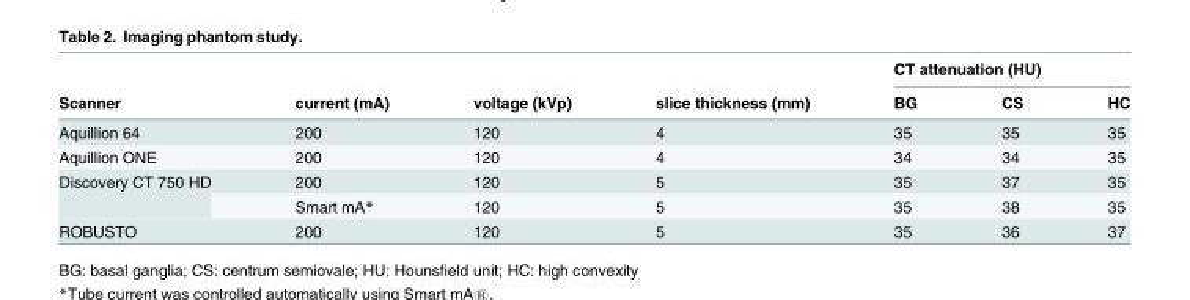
<table><thead><tr><td rowspan="2">Scanner</td><td rowspan="2">current (mA)</td><td rowspan="2">voltage (kVp)</td><td rowspan="2">slice thickness (mm)</td><td colspan="3">CT attenuation (HU)</td></tr><tr><td>BG</td><td>CS</td><td>HC</td></tr></thead><tbody><tr><td>Aquillion 64</td><td>200</td><td>120</td><td>4</td><td>35</td><td>35</td><td>35</td></tr><tr><td>Aquillion ONE</td><td>200</td><td>120</td><td>4</td><td>34</td><td>34</td><td>35</td></tr><tr><td rowspan="2">Discovery CT 750 HD</td><td>200</td><td>120</td><td>5</td><td>35</td><td>37</td><td>35</td></tr><tr><td>Smart mA*</td><td>120</td><td>5</td><td>35</td><td>38</td><td>35</td></tr><tr><td>ROBUSTO</td><td>200</td><td>120</td><td>5</td><td>35</td><td>36</td><td>37</td></tr></tbody></table>